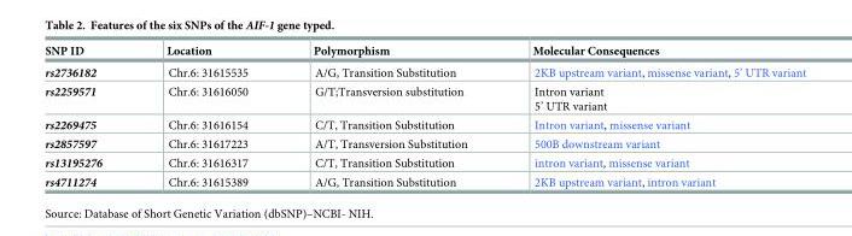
<table><thead><tr><td>SNP ID</td><td>Location</td><td>Polymorphism</td><td>Molecular Consequences</td></tr></thead><tbody><tr><td>rs2736182</td><td>Chr.6: 31615535</td><td>A/G, Transition Substitution</td><td>2KB upstream variant, missense variant, 5’ UTR variant</td></tr><tr><td>rs2259571</td><td>Chr.6: 31616050</td><td>G/T;Transversion substitution</td><td>Intron variant 5’ UTR variant</td></tr><tr><td>rs2269475</td><td>Chr.6: 31616154</td><td>C/T, Transition Substitution</td><td>Intron variant, missense variant</td></tr><tr><td>rs2857597</td><td>Chr.6: 31617223</td><td>A/T, Transversion Substitution</td><td>500B downstream variant</td></tr><tr><td>rs13195276</td><td>Chr.6: 31616317</td><td>C/T, Transition Substitution</td><td>intron variant, missense variant</td></tr><tr><td>rs4711274</td><td>Chr.6: 31615389</td><td>A/G, Transition Substitution</td><td>2KB upstream variant, intron variant</td></tr></tbody></table>